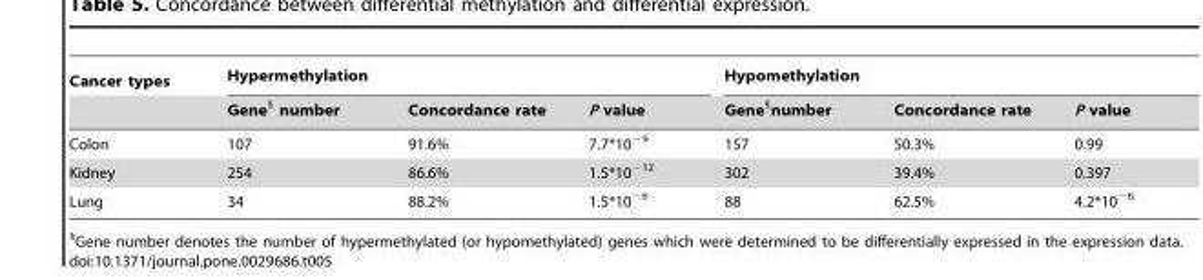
<table><thead><tr><td rowspan="2">Cancer types</td><td colspan="3">Hypermethylation</td><td colspan="3">Hypomethylation</td></tr><tr><td>Gene§ number</td><td>Concordance rate</td><td>P value</td><td>Gene§number</td><td>Concordance rate</td><td>P value</td></tr></thead><tbody><tr><td>Colon</td><td>107</td><td>91.6%</td><td>7.7*10<sup>−9</sup></td><td>157</td><td>50.3%</td><td>0.99</td></tr><tr><td>Kidney</td><td>254</td><td>86.6%</td><td>1.5*10<sup>−12</sup></td><td>302</td><td>39.4%</td><td>0.397</td></tr><tr><td>Lung</td><td>34</td><td>88.2%</td><td>1.5*10<sup>−6</sup></td><td>88</td><td>62.5%</td><td>4.2*10<sup>−6</sup></td></tr></tbody></table>